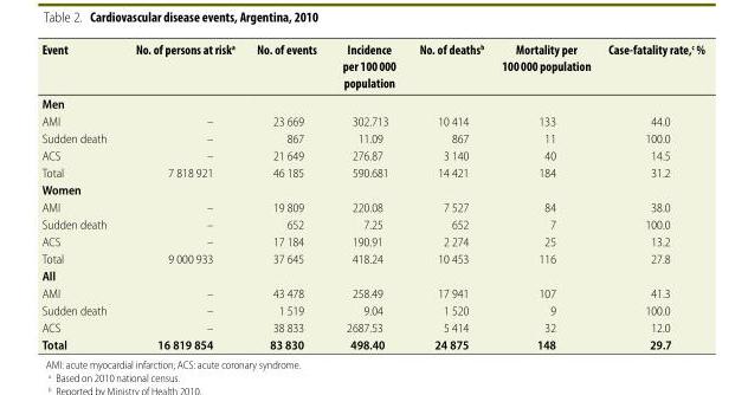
<table><thead><tr><td>Event</td><td>No. of persons at risk<sup>a</sup></td><td>No. of events</td><td>Incidence per 100 000 population</td><td>No. of deaths<sup>b</sup></td><td>Mortality per 100 000 population</td><td>Case-fatality rate,<sup>c</sup> %</td></tr></thead><tbody><tr><td colspan="7">Men</td></tr><tr><td>AMI</td><td>–</td><td>23 669</td><td>302.713</td><td>10 414</td><td>133</td><td>44.0</td></tr><tr><td>Sudden death</td><td>–</td><td>867</td><td>11.09</td><td>867</td><td>11</td><td>100.0</td></tr><tr><td>ACS</td><td>–</td><td>21 649</td><td>276.87</td><td>3 140</td><td>40</td><td>14.5</td></tr><tr><td>Total</td><td>7 818 921</td><td>46 185</td><td>590.681</td><td>14 421</td><td>184</td><td>31.2</td></tr><tr><td colspan="7">Women</td></tr><tr><td>AMI</td><td>–</td><td>19 809</td><td>220.08</td><td>7 527</td><td>84</td><td>38.0</td></tr><tr><td>Sudden death</td><td>–</td><td>652</td><td>7.25</td><td>652</td><td>7</td><td>100.0</td></tr><tr><td>ACS</td><td>–</td><td>17 184</td><td>190.91</td><td>2 274</td><td>25</td><td>13.2</td></tr><tr><td>Total</td><td>9 000 933</td><td>37 645</td><td>418.24</td><td>10 453</td><td>116</td><td>27.8</td></tr><tr><td colspan="7">All</td></tr><tr><td>AMI</td><td>–</td><td>43 478</td><td>258.49</td><td>17 941</td><td>107</td><td>41.3</td></tr><tr><td>Sudden death</td><td>–</td><td>1 519</td><td>9.04</td><td>1 520</td><td>9</td><td>100.0</td></tr><tr><td>ACS</td><td>–</td><td>38 833</td><td>2687.53</td><td>5 414</td><td>32</td><td>12.0</td></tr><tr><td>Total</td><td>16 819 854</td><td>83 830</td><td>498.40</td><td>24 875</td><td>148</td><td>29.7</td></tr></tbody></table>